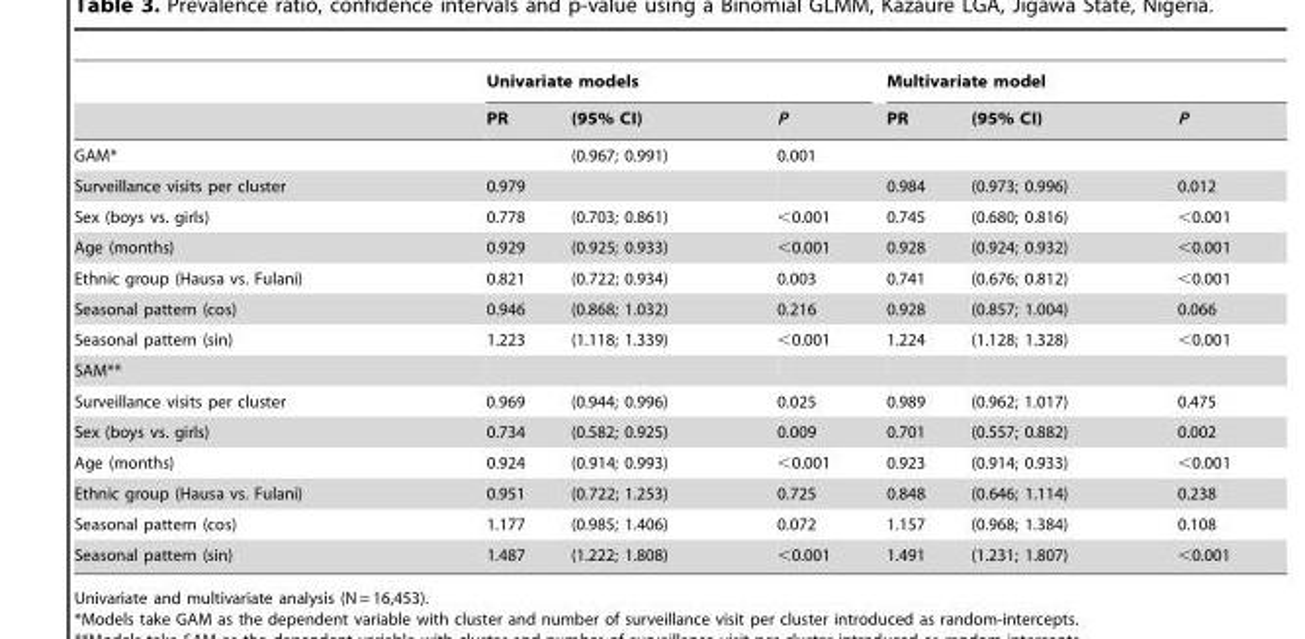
<table><thead><tr><td rowspan="2"></td><td colspan="3">Univariate models</td><td colspan="3">Multivariate model</td></tr><tr><td>PR</td><td>(95% CI)</td><td>P</td><td>PR</td><td>(95% CI)</td><td>P</td></tr></thead><tbody><tr><td>GAM*</td><td></td><td>(0.967; 0.991)</td><td>0.001</td><td></td><td></td><td></td></tr><tr><td>Surveillance visits per cluster</td><td>0.979</td><td></td><td></td><td>0.984</td><td>(0.973; 0.996)</td><td>0.012</td></tr><tr><td>Sex (boys vs. girls)</td><td>0.778</td><td>(0.703; 0.861)</td><td>&lt;0.001</td><td>0.745</td><td>(0.680; 0.816)</td><td>&lt;0.001</td></tr><tr><td>Age (months)</td><td>0.929</td><td>(0.925; 0.933)</td><td>&lt;0.001</td><td>0.928</td><td>(0.924; 0.932)</td><td>&lt;0.001</td></tr><tr><td>Ethnic group (Hausa vs. Fulani)</td><td>0.821</td><td>(0.722; 0.934)</td><td>0.003</td><td>0.741</td><td>(0.676; 0.812)</td><td>&lt;0.001</td></tr><tr><td>Seasonal pattern (cos)</td><td>0.946</td><td>(0.868; 1.032)</td><td>0.216</td><td>0.928</td><td>(0.857; 1.004)</td><td>0.066</td></tr><tr><td>Seasonal pattern (sin)</td><td>1.223</td><td>(1.118; 1.339)</td><td>&lt;0.001</td><td>1.224</td><td>(1.128; 1.328)</td><td>&lt;0.001</td></tr><tr><td colspan="7">SAM**</td></tr><tr><td>Surveillance visits per cluster</td><td>0.969</td><td>(0.944; 0.996)</td><td>0.025</td><td>0.989</td><td>(0.962; 1.017)</td><td>0.475</td></tr><tr><td>Sex (boys vs. girls)</td><td>0.734</td><td>(0.582; 0.925)</td><td>0.009</td><td>0.701</td><td>(0.557; 0.882)</td><td>0.002</td></tr><tr><td>Age (months)</td><td>0.924</td><td>(0.914; 0.993)</td><td>&lt;0.001</td><td>0.923</td><td>(0.914; 0.933)</td><td>&lt;0.001</td></tr><tr><td>Ethnic group (Hausa vs. Fulani)</td><td>0.951</td><td>(0.722; 1.253)</td><td>0.725</td><td>0.848</td><td>(0.646; 1.114)</td><td>0.238</td></tr><tr><td>Seasonal pattern (cos)</td><td>1.177</td><td>(0.985; 1.406)</td><td>0.072</td><td>1.157</td><td>(0.968; 1.384)</td><td>0.108</td></tr><tr><td>Seasonal pattern (sin)</td><td>1.487</td><td>(1.222; 1.808)</td><td>&lt;0.001</td><td>1.491</td><td>(1.231; 1.807)</td><td>&lt;0.001</td></tr></tbody></table>